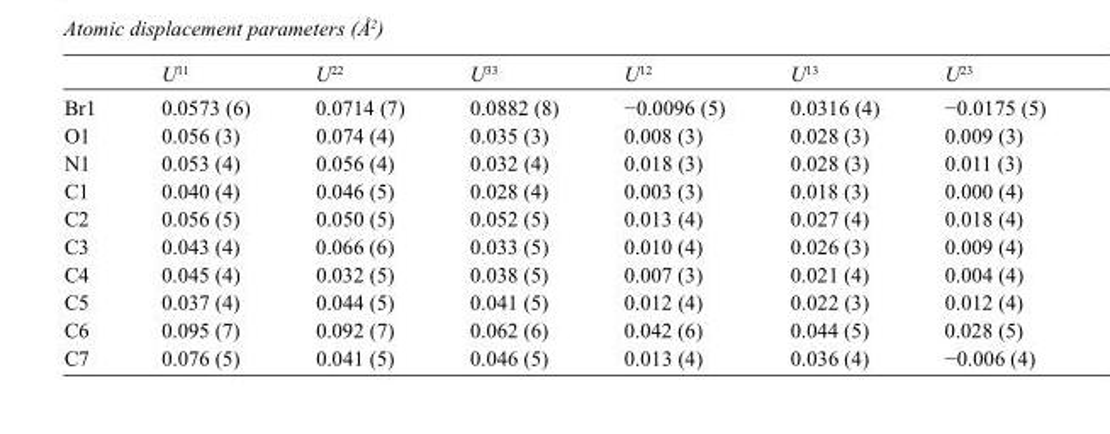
<table><thead><tr><td></td><td>U<sup>11</sup></td><td>U<sup>22</sup></td><td>U<sup>33</sup></td><td>U<sup>12</sup></td><td>U<sup>13</sup></td><td>U<sup>23</sup></td></tr></thead><tbody><tr><td>Br1</td><td>0.0573 (6)</td><td>0.0714 (7)</td><td>0.0882 (8)</td><td>−0.0096 (5)</td><td>0.0316 (4)</td><td>−0.0175 (5)</td></tr><tr><td>O1</td><td>0.056 (3)</td><td>0.074 (4)</td><td>0.035 (3)</td><td>0.008 (3)</td><td>0.028 (3)</td><td>0.009 (3)</td></tr><tr><td>N1</td><td>0.053 (4)</td><td>0.056 (4)</td><td>0.032 (4)</td><td>0.018 (3)</td><td>0.028 (3)</td><td>0.011 (3)</td></tr><tr><td>C1</td><td>0.040 (4)</td><td>0.046 (5)</td><td>0.028 (4)</td><td>0.003 (3)</td><td>0.018 (3)</td><td>0.000 (4)</td></tr><tr><td>C2</td><td>0.056 (5)</td><td>0.050 (5)</td><td>0.052 (5)</td><td>0.013 (4)</td><td>0.027 (4)</td><td>0.018 (4)</td></tr><tr><td>C3</td><td>0.043 (4)</td><td>0.066 (6)</td><td>0.033 (5)</td><td>0.010 (4)</td><td>0.026 (3)</td><td>0.009 (4)</td></tr><tr><td>C4</td><td>0.045 (4)</td><td>0.032 (5)</td><td>0.038 (5)</td><td>0.007 (3)</td><td>0.021 (4)</td><td>0.004 (4)</td></tr><tr><td>C5</td><td>0.037 (4)</td><td>0.044 (5)</td><td>0.041 (5)</td><td>0.012 (4)</td><td>0.022 (3)</td><td>0.012 (4)</td></tr><tr><td>C6</td><td>0.095 (7)</td><td>0.092 (7)</td><td>0.062 (6)</td><td>0.042 (6)</td><td>0.044 (5)</td><td>0.028 (5)</td></tr><tr><td>C7</td><td>0.076 (5)</td><td>0.041 (5)</td><td>0.046 (5)</td><td>0.013 (4)</td><td>0.036 (4)</td><td>−0.006 (4)</td></tr></tbody></table>